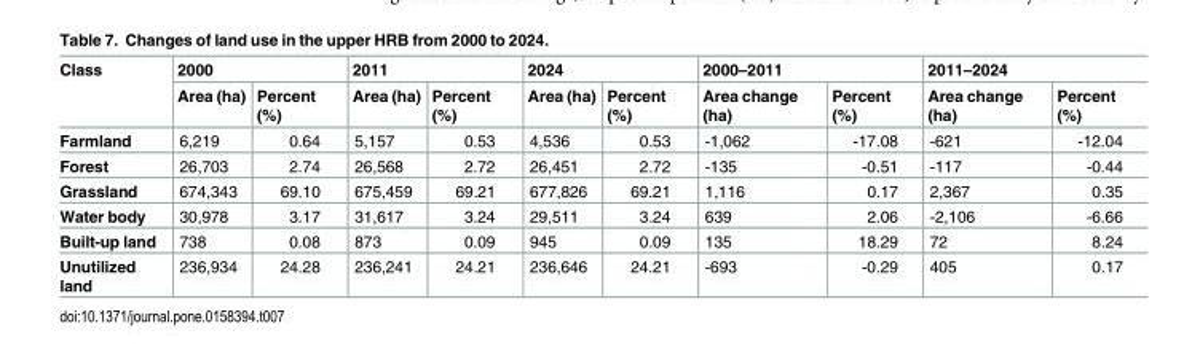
<table><thead><tr><td rowspan="2">Class</td><td colspan="2">2000</td><td colspan="2">2011</td><td colspan="2">2024</td><td colspan="2">2000–2011</td><td colspan="2">2011–2024</td></tr><tr><td>Area (ha)</td><td>Percent (%)</td><td>Area (ha)</td><td>Percent (%)</td><td>Area (ha)</td><td>Percent (%)</td><td>Area change (ha)</td><td>Percent (%)</td><td>Area change (ha)</td><td>Percent (%)</td></tr></thead><tbody><tr><td>Farmland</td><td>6,219</td><td>0.64</td><td>5,157</td><td>0.53</td><td>4,536</td><td>0.53</td><td>-1,062</td><td>-17.08</td><td>-621</td><td>-12.04</td></tr><tr><td>Forest</td><td>26,703</td><td>2.74</td><td>26,568</td><td>2.72</td><td>26,451</td><td>2.72</td><td>-135</td><td>-0.51</td><td>-117</td><td>-0.44</td></tr><tr><td>Grassland</td><td>674,343</td><td>69.10</td><td>675,459</td><td>69.21</td><td>677,826</td><td>69.21</td><td>1,116</td><td>0.17</td><td>2,367</td><td>0.35</td></tr><tr><td>Water body</td><td>30,978</td><td>3.17</td><td>31,617</td><td>3.24</td><td>29,511</td><td>3.24</td><td>639</td><td>2.06</td><td>-2,106</td><td>-6.66</td></tr><tr><td>Built-up land</td><td>738</td><td>0.08</td><td>873</td><td>0.09</td><td>945</td><td>0.09</td><td>135</td><td>18.29</td><td>72</td><td>8.24</td></tr><tr><td>Unutilized land</td><td>236,934</td><td>24.28</td><td>236,241</td><td>24.21</td><td>236,646</td><td>24.21</td><td>-693</td><td>-0.29</td><td>405</td><td>0.17</td></tr></tbody></table>